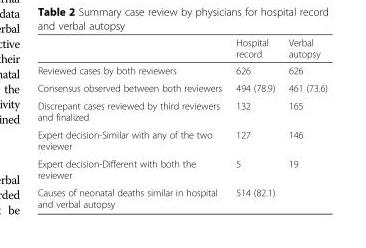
<table><thead><tr><td></td><td>Hospital record</td><td>Verbal autopsy</td></tr></thead><tbody><tr><td>Reviewed cases by both reviewers</td><td>626</td><td>626</td></tr><tr><td>Consensus observed between both reviewers</td><td>494 (78.9)</td><td>461 (73.6)</td></tr><tr><td>Discrepant cases reviewed by third reviewers and finalized</td><td>132</td><td>165</td></tr><tr><td>Expert decision-Similar with any of the two reviewer</td><td>127</td><td>146</td></tr><tr><td>Expert decision-Different with both the reviewer</td><td>5</td><td>19</td></tr><tr><td>Causes of neonatal deaths similar in hospital and verbal autopsy</td><td colspan="2">514 (82.1)</td></tr></tbody></table>